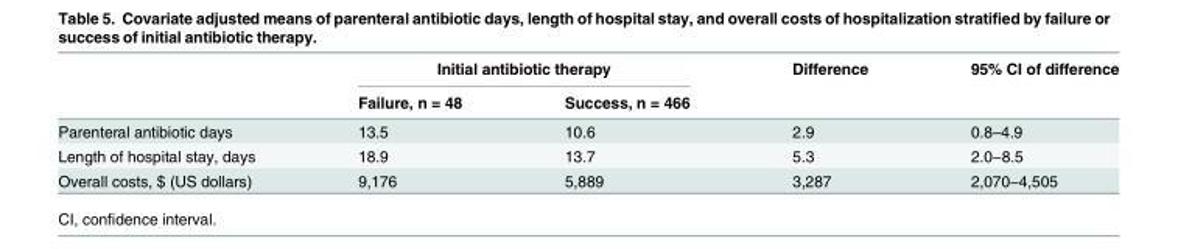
<table><thead><tr><td rowspan="2"></td><td colspan="2">Initial antibiotic therapy</td><td rowspan="2">Difference</td><td rowspan="2">95% CI of difference</td></tr><tr><td>Failure, n = 48</td><td>Success, n = 466</td></tr></thead><tbody><tr><td>Parenteral antibiotic days</td><td>13.5</td><td>10.6</td><td>2.9</td><td>0.8–4.9</td></tr><tr><td>Length of hospital stay, days</td><td>18.9</td><td>13.7</td><td>5.3</td><td>2.0−8.5</td></tr><tr><td>Overall costs, $ (US dollars)</td><td>9,176</td><td>5,889</td><td>3,287</td><td>2,070−4,505</td></tr></tbody></table>